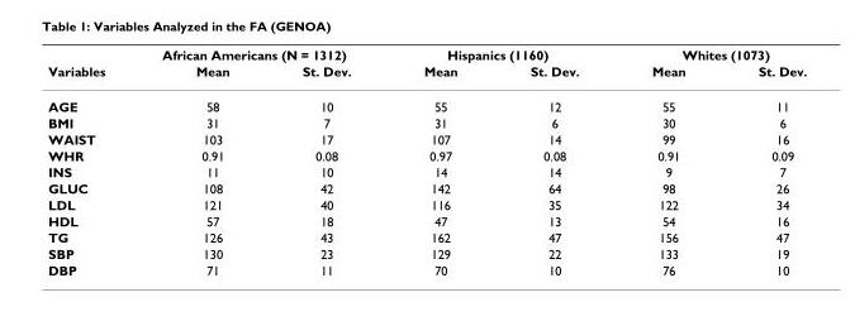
<table><thead><tr><td rowspan="2">Variables</td><td colspan="2">African Americans (N = 1312)</td><td colspan="2">Hispanics (1160)</td><td colspan="2">Whites (1073)</td></tr><tr><td>Mean</td><td>St. Dev.</td><td>Mean</td><td>St. Dev.</td><td>Mean</td><td>St. Dev.</td></tr></thead><tbody><tr><td>AGE</td><td>58</td><td>10</td><td>55</td><td>12</td><td>55</td><td>11</td></tr><tr><td>BMI</td><td>31</td><td>7</td><td>31</td><td>6</td><td>30</td><td>6</td></tr><tr><td>WAIST</td><td>103</td><td>17</td><td>107</td><td>14</td><td>99</td><td>16</td></tr><tr><td>WHR</td><td>0.91</td><td>0.08</td><td>0.97</td><td>0.08</td><td>0.91</td><td>0.09</td></tr><tr><td>INS</td><td>11</td><td>10</td><td>14</td><td>14</td><td>9</td><td>7</td></tr><tr><td>GLUC</td><td>108</td><td>42</td><td>142</td><td>64</td><td>98</td><td>26</td></tr><tr><td>LDL</td><td>121</td><td>40</td><td>116</td><td>35</td><td>122</td><td>34</td></tr><tr><td>HDL</td><td>57</td><td>18</td><td>47</td><td>13</td><td>54</td><td>16</td></tr><tr><td>TG</td><td>126</td><td>43</td><td>162</td><td>47</td><td>156</td><td>47</td></tr><tr><td>SBP</td><td>130</td><td>23</td><td>129</td><td>22</td><td>133</td><td>19</td></tr><tr><td>DBP</td><td>71</td><td>11</td><td>70</td><td>10</td><td>76</td><td>10</td></tr></tbody></table>